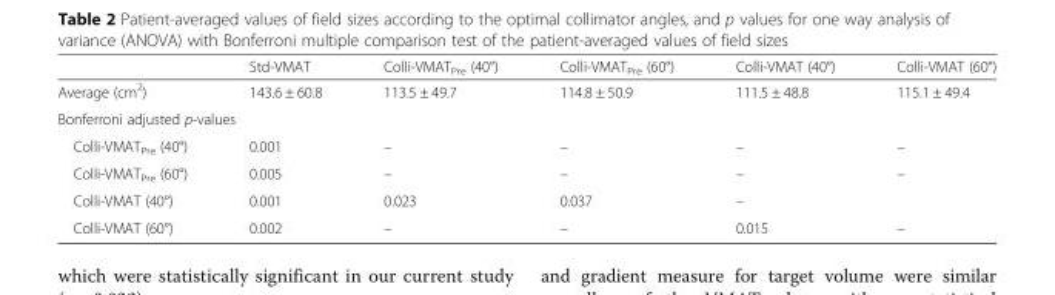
<table><thead><tr><td></td><td>Std-VMAT</td><td>Colli-VMAT<sub>Pre</sub> (40°)</td><td>Colli-VMAT<sub>Pre</sub> (60°)</td><td>Colli-VMAT (40°)</td><td>Colli-VMAT (60°)</td></tr></thead><tbody><tr><td>Average (cm<sup>2</sup>)</td><td>143.6 ± 60.8</td><td>113.5 ± 49.7</td><td>114.8 ± 50.9</td><td>111.5 ± 48.8</td><td>115.1 ± 49.4</td></tr><tr><td colspan="6">Bonferroni adjusted p-values</td></tr><tr><td>Colli-VMAT<sub>Pre</sub> (40°)</td><td>0.001</td><td>–</td><td>–</td><td>–</td><td>–</td></tr><tr><td>Colli-VMAT<sub>Pre</sub> (60°)</td><td>0.005</td><td>–</td><td>–</td><td>–</td><td>–</td></tr><tr><td>Colli-VMAT (40°)</td><td>0.001</td><td>0.023</td><td>0.037</td><td>–</td><td></td></tr><tr><td>Colli-VMAT (60°)</td><td>0.002</td><td>–</td><td>–</td><td>0.015</td><td>–</td></tr></tbody></table>